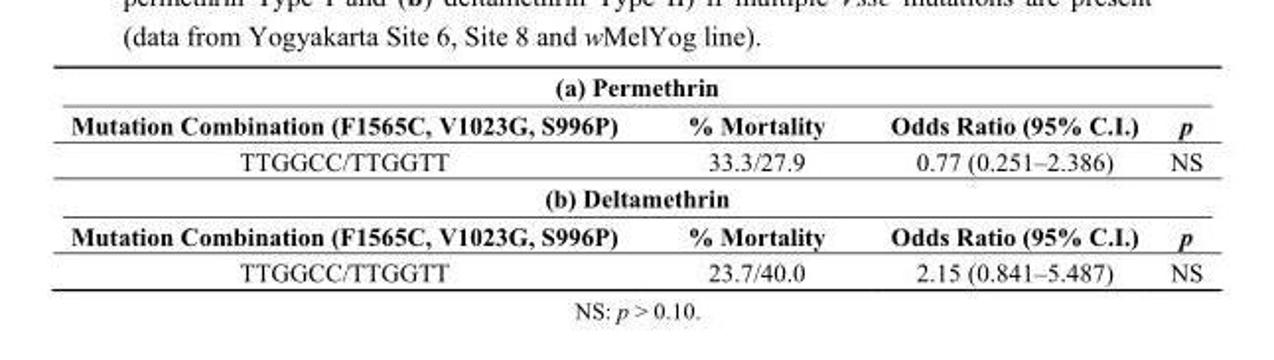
<table><tbody><tr><td colspan="4">(a) Permethrin</td></tr><tr><td>Mutation Combination (F1565C, V1023G, S996P)</td><td>% Mortality</td><td>Odds Ratio (95% C.I.)</td><td>p</td></tr><tr><td>TTGGCC/TTGGTT</td><td>33.3/27.9</td><td>0.77 (0.251–2.386)</td><td>NS</td></tr><tr><td colspan="4">(b) Deltamethrin</td></tr><tr><td>Mutation Combination (F1565C, V1023G, S996P)</td><td>% Mortality</td><td>Odds Ratio (95% C.I.)</td><td>p</td></tr><tr><td>TTGGCC/TTGGTT</td><td>23.7/40.0</td><td>2.15 (0.841–5.487)</td><td>NS</td></tr></tbody></table>